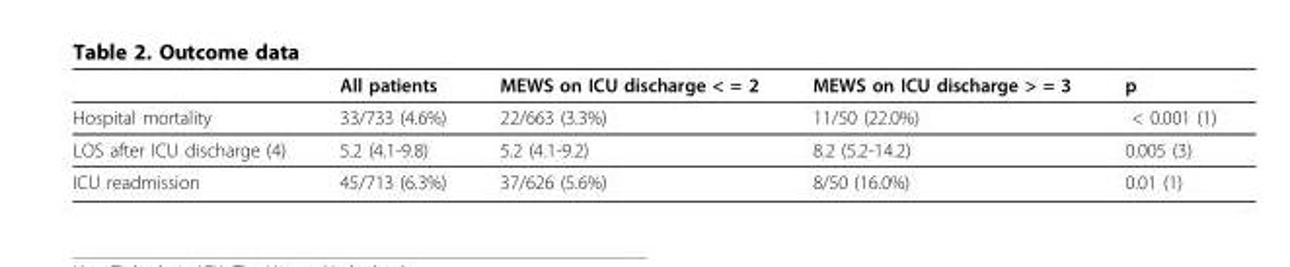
<table><thead><tr><td></td><td>All patients</td><td>MEWS on ICU discharge &lt; = 2</td><td>MEWS on ICU discharge &gt; = 3</td><td>p</td></tr></thead><tbody><tr><td>Hospital mortality</td><td>33/733 (4.6%)</td><td>22/663 (3.3%)</td><td>11/50 (22.0%)</td><td>&lt; 0.001 (1)</td></tr><tr><td>LOS after ICU discharge (4)</td><td>5.2 (4.1-9.8)</td><td>5.2 (4.1-9.2)</td><td>8.2 (5.2-14.2)</td><td>0.005 (3)</td></tr><tr><td>ICU readmission</td><td>45/713 (6.3%)</td><td>37/626 (5.6%)</td><td>8/50 (16.0%)</td><td>0.01 (1)</td></tr></tbody></table>